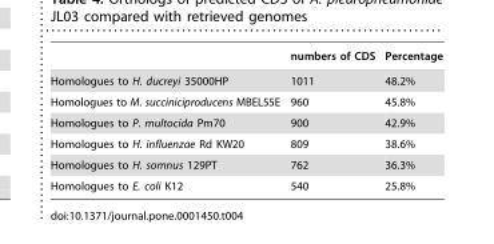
<table><thead><tr><td></td><td>numbers of CDS</td><td>Percentage</td></tr></thead><tbody><tr><td>Homologues to H. ducreyi 35000HP</td><td>1011</td><td>48.2%</td></tr><tr><td>Homologues to M. succiniciproducens MBEL55E</td><td>960</td><td>45.8%</td></tr><tr><td>Homologues to P. multocida Pm70</td><td>900</td><td>42.9%</td></tr><tr><td>Homologues to H. influenzae Rd KW20</td><td>809</td><td>38.6%</td></tr><tr><td>Homologues to H. somnus 129PT</td><td>762</td><td>36.3%</td></tr><tr><td>Homologues to E. coli K12</td><td>540</td><td>25.8%</td></tr></tbody></table>